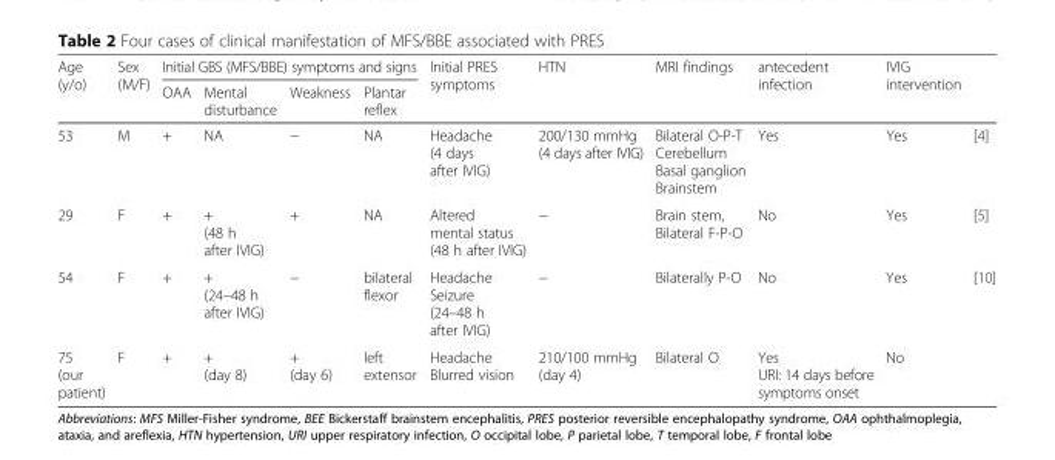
<table><thead><tr><td rowspan="2">Age (y/o)</td><td rowspan="2">Sex (M/F)</td><td colspan="4">Initial GBS (MFS/BBE) symptoms and signs</td><td rowspan="2">Initial PRES symptoms</td><td rowspan="2">HTN</td><td rowspan="2">MRI findings</td><td rowspan="2">antecedent infection</td><td rowspan="2">IVIG intervention</td><td rowspan="2"></td></tr><tr><td>OAA</td><td>Mental disturbance</td><td>Weakness</td><td>Plantar reflex</td></tr></thead><tbody><tr><td>53</td><td>M</td><td>+</td><td>NA</td><td>−</td><td>NA</td><td>Headache (4 days after IVIG)</td><td>200/130 mmHg (4 days after IVIG)</td><td>Bilateral O-P-T Cerebellum Basal ganglion Brainstem</td><td>Yes</td><td>Yes</td><td>[4]</td></tr><tr><td>29</td><td>F</td><td>+</td><td>+ (48 h after IVIG)</td><td>+</td><td>NA</td><td>Altered mental status (48 h after IVIG)</td><td>−</td><td>Brain stem, Bilateral F-P-O</td><td>No</td><td>Yes</td><td>[5]</td></tr><tr><td>54</td><td>F</td><td>+</td><td>+ (24–48 h after IVIG)</td><td>−</td><td>bilateral flexor</td><td>Headache Seizure (24–48 h after IVIG)</td><td>−</td><td>Bilaterally P-O</td><td>No</td><td>Yes</td><td>[10]</td></tr><tr><td>75 (our patient)</td><td>F</td><td>+</td><td>+ (day 8)</td><td>+ (day 6)</td><td>left extensor</td><td>Headache Blurred vision</td><td>210/100 mmHg (day 4)</td><td>Bilateral O</td><td>Yes URI: 14 days before symptoms onset</td><td>No</td><td></td></tr></tbody></table>